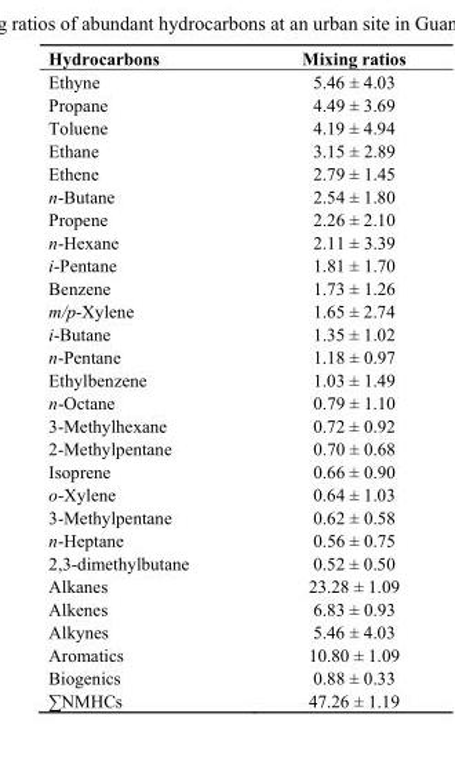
<table><thead><tr><td>Hydrocarbons</td><td>Mixing ratios</td></tr></thead><tbody><tr><td>Ethyne</td><td>5.46 ± 4.03</td></tr><tr><td>Propane</td><td>4.49 ± 3.69</td></tr><tr><td>Toluene</td><td>4.19 ± 4.94</td></tr><tr><td>Ethane</td><td>3.15 ± 2.89</td></tr><tr><td>Ethene</td><td>2.79 ± 1.45</td></tr><tr><td>n-Butane</td><td>2.54 ± 1.80</td></tr><tr><td>Propene</td><td>2.26 ± 2.10</td></tr><tr><td>n-Hexane</td><td>2.11 ± 3.39</td></tr><tr><td>i-Pentane</td><td>1.81 ± 1.70</td></tr><tr><td>Benzene</td><td>1.73 ± 1.26</td></tr><tr><td>m/p-Xylene</td><td>1.65 ± 2.74</td></tr><tr><td>i-Butane</td><td>1.35 ± 1.02</td></tr><tr><td>n-Pentane</td><td>1.18 ± 0.97</td></tr><tr><td>Ethylbenzene</td><td>1.03 ± 1.49</td></tr><tr><td>n-Octane</td><td>0.79 ± 1.10</td></tr><tr><td>3-Methylhexane</td><td>0.72 ± 0.92</td></tr><tr><td>2-Methylpentane</td><td>0.70 ± 0.68</td></tr><tr><td>Isoprene</td><td>0.66 ± 0.90</td></tr><tr><td>o-Xylene</td><td>0.64 ± 1.03</td></tr><tr><td>3-Methylpentane</td><td>0.62 ± 0.58</td></tr><tr><td>n-Heptane</td><td>0.56 ± 0.75</td></tr><tr><td>2,3-dimethylbutane</td><td>0.52 ± 0.50</td></tr><tr><td>Alkanes</td><td>23.28 ± 1.09</td></tr><tr><td>Alkenes</td><td>6.83 ± 0.93</td></tr><tr><td>Alkynes</td><td>5.46 ± 4.03</td></tr><tr><td>Aromatics</td><td>10.80 ± 1.09</td></tr><tr><td>Biogenics</td><td>0.88 ± 0.33</td></tr><tr><td>∑NMHCs</td><td>47.26 ± 1.19</td></tr></tbody></table>